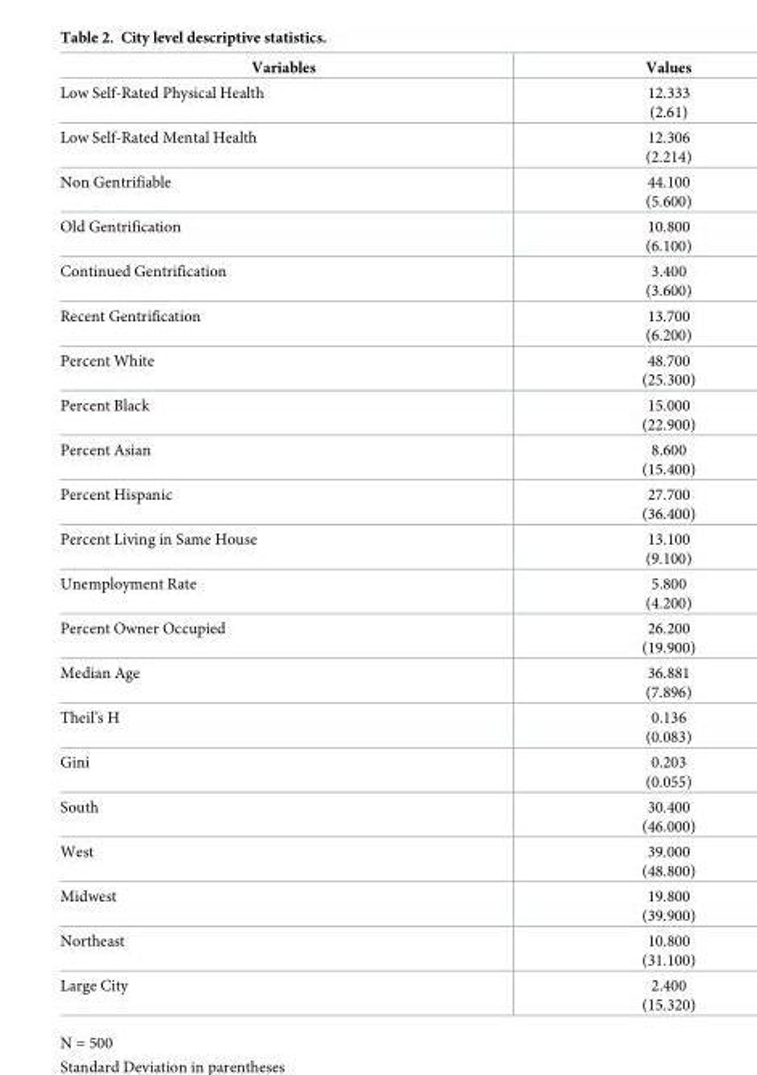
<table><thead><tr><td>Variables</td><td>Values</td></tr></thead><tbody><tr><td>Low Self-Rated Physical Health</td><td>12.333 (2.61)</td></tr><tr><td>Low Self-Rated Mental Health</td><td>12.306 (2.214)</td></tr><tr><td>Non Gentrifiable</td><td>44.100 (5.600)</td></tr><tr><td>Old Gentrification</td><td>10.800 (6.100)</td></tr><tr><td>Continued Gentrification</td><td>3.400 (3.600)</td></tr><tr><td>Recent Gentrification</td><td>13.700 (6.200)</td></tr><tr><td>Percent White</td><td>48.700 (25.300)</td></tr><tr><td>Percent Black</td><td>15.000 (22.900)</td></tr><tr><td>Percent Asian</td><td>8.600 (15.400)</td></tr><tr><td>Percent Hispanic</td><td>27.700 (36.400)</td></tr><tr><td>Percent Living in Same House</td><td>13.100 (9.100)</td></tr><tr><td>Unemployment Rate</td><td>5.800 (4.200)</td></tr><tr><td>Percent Owner Occupied</td><td>26.200 (19.900)</td></tr><tr><td>Median Age</td><td>36.881 (7.896)</td></tr><tr><td>Theil’s H</td><td>0.136 (0.083)</td></tr><tr><td>Gini</td><td>0.203 (0.055)</td></tr><tr><td>South</td><td>30.400 (46.000)</td></tr><tr><td>West</td><td>39.000 (48.800)</td></tr><tr><td>Midwest</td><td>19.800 (39.900)</td></tr><tr><td>Northeast</td><td>10.800 (31.100)</td></tr><tr><td>Large City</td><td>2.400 (15.320)</td></tr></tbody></table>